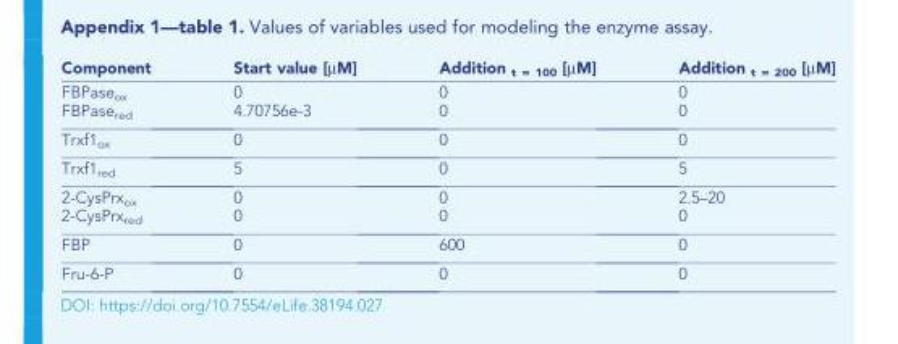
<table><thead><tr><td>Component</td><td>Start value [µM]</td><td>Addition <sub>t = 100</sub> [µM]</td><td>Addition <sub>t = 200</sub> [µM]</td></tr></thead><tbody><tr><td>FBPase<sub>ox</sub> FBPase<sub>red</sub></td><td>0 4.70756e-3</td><td>0 0</td><td>0 0</td></tr><tr><td>Trxf1<sub>ox</sub></td><td>0</td><td>0</td><td>0</td></tr><tr><td>Trxf1<sub>red</sub></td><td>5</td><td>0</td><td>5</td></tr><tr><td>2-CysPrx<sub>ox</sub> 2-CysPrx<sub>red</sub></td><td>0 0</td><td>0 0</td><td>2.5–20 0</td></tr><tr><td>FBP</td><td>0</td><td>600</td><td>0</td></tr><tr><td>Fru-6-P</td><td>0</td><td>0</td><td>0</td></tr></tbody></table>